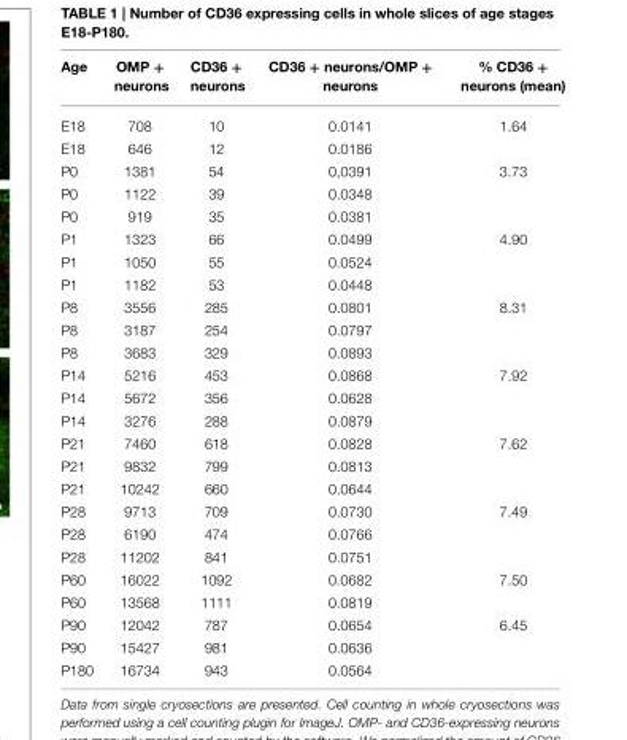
<table><thead><tr><td>Age</td><td>OMP + neurons</td><td>CD36 + neurons</td><td>CD36 + neurons/OMP + neurons</td><td>% CD36 + neurons (mean)</td></tr></thead><tbody><tr><td>E18</td><td>708</td><td>10</td><td>0.0141</td><td>1.64</td></tr><tr><td>E18</td><td>646</td><td>12</td><td>0.0186</td><td></td></tr><tr><td>P0</td><td>1381</td><td>54</td><td>0,0391</td><td>3.73</td></tr><tr><td>P0</td><td>1122</td><td>39</td><td>0.0348</td><td></td></tr><tr><td>P0</td><td>919</td><td>35</td><td>0.0381</td><td></td></tr><tr><td>P1</td><td>1323</td><td>66</td><td>0.0499</td><td>4.90</td></tr><tr><td>P1</td><td>1050</td><td>55</td><td>0.0524</td><td></td></tr><tr><td>P1</td><td>1182</td><td>53</td><td>0.0448</td><td></td></tr><tr><td>P8</td><td>3556</td><td>285</td><td>0.0801</td><td>8.31</td></tr><tr><td>P8</td><td>3187</td><td>254</td><td>0.0797</td><td></td></tr><tr><td>P8</td><td>3683</td><td>329</td><td>0.0893</td><td></td></tr><tr><td>P14</td><td>5216</td><td>453</td><td>0.0868</td><td>7.92</td></tr><tr><td>P14</td><td>5672</td><td>356</td><td>0.0628</td><td></td></tr><tr><td>P14</td><td>3276</td><td>288</td><td>0.0879</td><td></td></tr><tr><td>P21</td><td>7460</td><td>618</td><td>0.0828</td><td>7.62</td></tr><tr><td>P21</td><td>9832</td><td>799</td><td>0.0813</td><td></td></tr><tr><td>P21</td><td>10242</td><td>660</td><td>0.0644</td><td></td></tr><tr><td>P28</td><td>9713</td><td>709</td><td>0.0730</td><td>7.49</td></tr><tr><td>P28</td><td>6190</td><td>474</td><td>0.0766</td><td></td></tr><tr><td>P28</td><td>11202</td><td>841</td><td>0.0751</td><td></td></tr><tr><td>P60</td><td>16022</td><td>1092</td><td>0.0682</td><td>7.50</td></tr><tr><td>P60</td><td>13568</td><td>1111</td><td>0.0819</td><td></td></tr><tr><td>P90</td><td>12042</td><td>787</td><td>0.0654</td><td>6.45</td></tr><tr><td>P90</td><td>15427</td><td>981</td><td>0.0636</td><td></td></tr><tr><td>P180</td><td>16734</td><td>943</td><td>0.0564</td><td></td></tr></tbody></table>